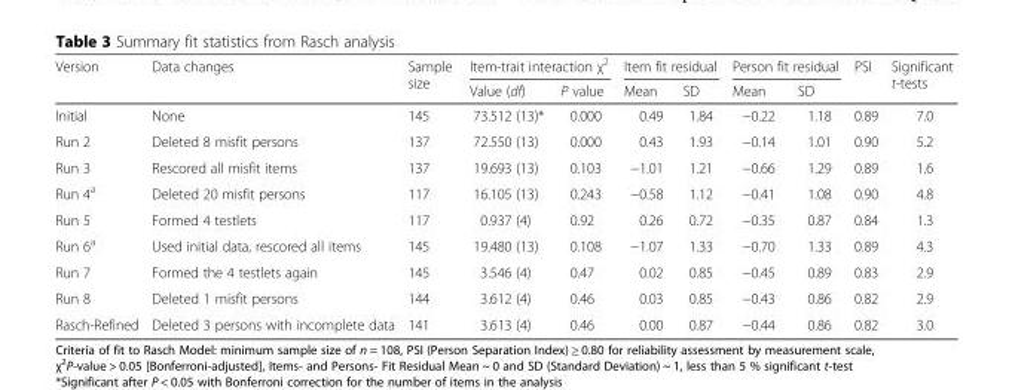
<table><thead><tr><td rowspan="2">Version</td><td rowspan="2">Data changes</td><td rowspan="2">Sample size</td><td colspan="2">Item-trait interaction χ<sup>2</sup></td><td colspan="2">Item fit residual</td><td colspan="2">Person fit residual</td><td rowspan="2">PSI</td><td rowspan="2">Significant t-tests</td></tr><tr><td>Value (df)</td><td>P value</td><td>Mean</td><td>SD</td><td>Mean</td><td>SD</td></tr></thead><tbody><tr><td>Initial</td><td>None</td><td>145</td><td>73.512 (13)*</td><td>0.000</td><td>0.49</td><td>1.84</td><td>−0.22</td><td>1.18</td><td>0.89</td><td>7.0</td></tr><tr><td>Run 2</td><td>Deleted 8 misfit persons</td><td>137</td><td>72.550 (13)</td><td>0.000</td><td>0.43</td><td>1.93</td><td>−0.14</td><td>1.01</td><td>0.90</td><td>5.2</td></tr><tr><td>Run 3</td><td>Rescored all misfit items</td><td>137</td><td>19.693 (13)</td><td>0.103</td><td>−1.01</td><td>1.21</td><td>−0.66</td><td>1.29</td><td>0.89</td><td>1.6</td></tr><tr><td>Run 4<sup>a</sup></td><td>Deleted 20 misfit persons</td><td>117</td><td>16.105 (13)</td><td>0.243</td><td>−0.58</td><td>1.12</td><td>−0.41</td><td>1.08</td><td>0.90</td><td>4.8</td></tr><tr><td>Run 5</td><td>Formed 4 testlets</td><td>117</td><td>0.937 (4)</td><td>0.92</td><td>0.26</td><td>0.72</td><td>−0.35</td><td>0.87</td><td>0.84</td><td>1.3</td></tr><tr><td>Run 6<sup>a</sup></td><td>Used initial data, rescored all items</td><td>145</td><td>19.480 (13)</td><td>0.108</td><td>−1.07</td><td>1.33</td><td>−0.70</td><td>1.33</td><td>0.89</td><td>4.3</td></tr><tr><td>Run 7</td><td>Formed the 4 testlets again</td><td>145</td><td>3.546 (4)</td><td>0.47</td><td>0.02</td><td>0.85</td><td>−0.45</td><td>0.89</td><td>0.83</td><td>2.9</td></tr><tr><td>Run 8</td><td>Deleted 1 misfit persons</td><td>144</td><td>3.612 (4)</td><td>0.46</td><td>0.03</td><td>0.85</td><td>−0.43</td><td>0.86</td><td>0.82</td><td>2.9</td></tr><tr><td>Rasch-Refined</td><td>Deleted 3 persons with incomplete data</td><td>141</td><td>3.613 (4)</td><td>0.46</td><td>0.00</td><td>0.87</td><td>−0.44</td><td>0.86</td><td>0.82</td><td>3.0</td></tr></tbody></table>